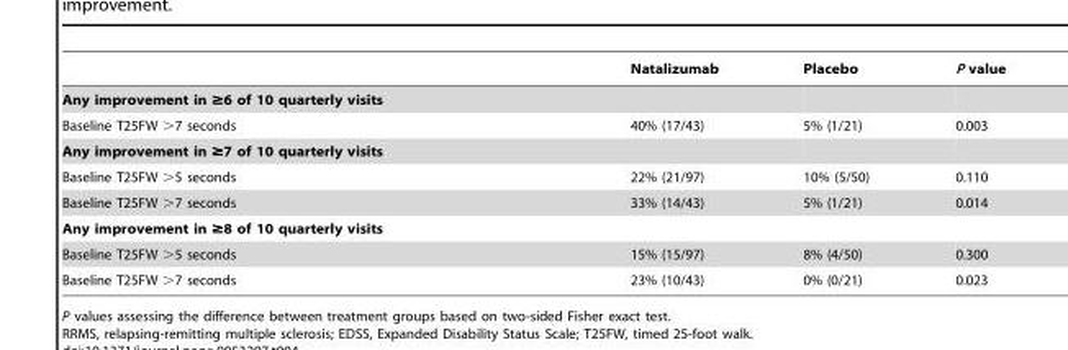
<table><thead><tr><td></td><td>Natalizumab</td><td>Placebo</td><td>P value</td></tr></thead><tbody><tr><td colspan="4">Any improvement in ≥6 of 10 quarterly visits</td></tr><tr><td>Baseline T25FW &gt;7 seconds</td><td>40% (17/43)</td><td>5% (1/21)</td><td>0.003</td></tr><tr><td colspan="4">Any improvement in ≥7 of 10 quarterly visits</td></tr><tr><td>Baseline T25FW &gt;5 seconds</td><td>22% (21/97)</td><td>10% (5/50)</td><td>0.110</td></tr><tr><td>Baseline T25FW &gt;7 seconds</td><td>33% (14/43)</td><td>5% (1/21)</td><td>0.014</td></tr><tr><td colspan="4">Any improvement in ≥8 of 10 quarterly visits</td></tr><tr><td>Baseline T25FW &gt;5 seconds</td><td>15% (15/97)</td><td>8% (4/50)</td><td>0.300</td></tr><tr><td>Baseline T25FW &gt;7 seconds</td><td>23% (10/43)</td><td>0% (0/21)</td><td>0.023</td></tr></tbody></table>